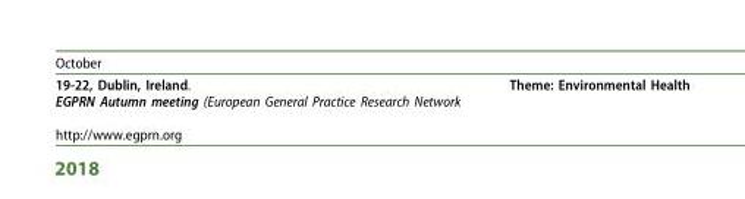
<table><thead><tr><td>October</td><td></td></tr></thead><tbody><tr><td>19-22, Dublin, Ireland. EGPRN Autumn meeting (European General Practice Research Network http://www.egprn.org</td><td>Theme: Environmental Health</td></tr></tbody></table>